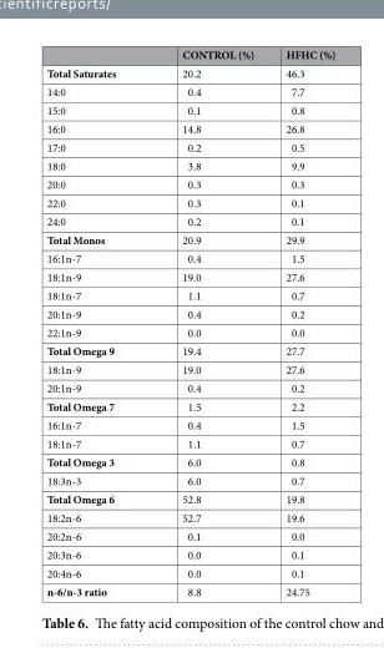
<table><thead><tr><td></td><td>CONTROL (%)</td><td>HFHC (%)</td></tr></thead><tbody><tr><td>Total Saturates</td><td>20.2</td><td>46.3</td></tr><tr><td>14:0</td><td>0.4</td><td>7.7</td></tr><tr><td>15:0</td><td>0.1</td><td>0.8</td></tr><tr><td>16:0</td><td>14.8</td><td>26.8</td></tr><tr><td>17:0</td><td>0.2</td><td>0.5</td></tr><tr><td>18:0</td><td>3.8</td><td>9.9</td></tr><tr><td>20:0</td><td>0.3</td><td>0.3</td></tr><tr><td>22:0</td><td>0.3</td><td>0.1</td></tr><tr><td>24:0</td><td>0.2</td><td>0.1</td></tr><tr><td>Total Monos</td><td>20.9</td><td>29.9</td></tr><tr><td>16:1n-7</td><td>0.4</td><td>1.5</td></tr><tr><td>18:1n-9</td><td>19.0</td><td>27.6</td></tr><tr><td>18:1n-7</td><td>1.1</td><td>0.7</td></tr><tr><td>20:1n-9</td><td>0.4</td><td>0.2</td></tr><tr><td>22:1n-9</td><td>0.0</td><td>0.0</td></tr><tr><td>Total Omega 9</td><td>19.4</td><td>27.7</td></tr><tr><td>18:1n-9</td><td>19.0</td><td>27.6</td></tr><tr><td>20:1n-9</td><td>0.4</td><td>0.2</td></tr><tr><td>Total Omega 7</td><td>1.5</td><td>2.2</td></tr><tr><td>16:1n-7</td><td>0.4</td><td>1.5</td></tr><tr><td>18:1n-7</td><td>1.1</td><td>0.7</td></tr><tr><td>Total Omega 3</td><td>6.0</td><td>0.8</td></tr><tr><td>18:3n-3</td><td>6.0</td><td>0.7</td></tr><tr><td>Total Omega 6</td><td>52.8</td><td>19.8</td></tr><tr><td>18:2n-6</td><td>52.7</td><td>19.6</td></tr><tr><td>20:2n-6</td><td>0.1</td><td>0.0</td></tr><tr><td>20:3n-6</td><td>0.0</td><td>0.1</td></tr><tr><td>20:4n-6</td><td>0.0</td><td>0.1</td></tr><tr><td>n-6/n-3 ratio</td><td>8.8</td><td>24.75</td></tr></tbody></table>